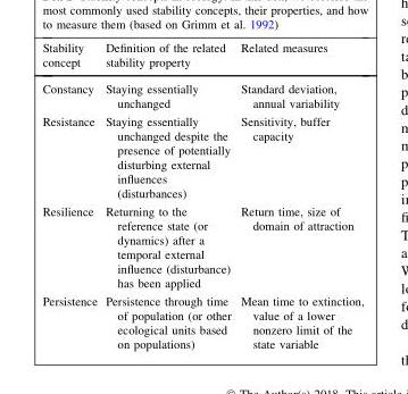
<table><thead><tr><td>Stability concept</td><td>Definition of the related stability property</td><td>Related measures</td></tr></thead><tbody><tr><td>Constancy</td><td>Staying essentially unchanged</td><td>Standard deviation, annual variability</td></tr><tr><td>Resistance</td><td>Staying essentially unchanged despite the presence of potentially disturbing external influences (disturbances)</td><td>Sensitivity, buffer capacity</td></tr><tr><td>Resilience</td><td>Returning to the reference state (or dynamics) after a temporal external influence (disturbance) has been applied</td><td>Return time, size of domain of attraction</td></tr><tr><td>Persistence</td><td>Persistence through time of population (or other ecological units based on populations)</td><td>Mean time to extinction, value of a lower nonzero limit of the state variable</td></tr></tbody></table>